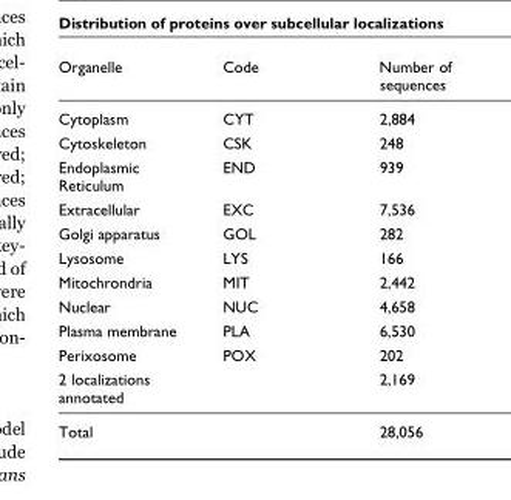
<table><thead><tr><td>Organelle</td><td>Code</td><td>Number of sequences</td></tr></thead><tbody><tr><td>Cytoplasm</td><td>CYT</td><td>2,884</td></tr><tr><td>Cytoskeleton</td><td>CSK</td><td>248</td></tr><tr><td>Endoplasmic Reticulum</td><td>END</td><td>939</td></tr><tr><td>Extracellular</td><td>EXC</td><td>7,536</td></tr><tr><td>Golgi apparatus</td><td>GOL</td><td>282</td></tr><tr><td>Lysosome</td><td>LYS</td><td>166</td></tr><tr><td>Mitochrondria</td><td>MIT</td><td>2,442</td></tr><tr><td>Nuclear</td><td>NUC</td><td>4,658</td></tr><tr><td>Plasma membrane</td><td>PLA</td><td>6,530</td></tr><tr><td>Perixosome</td><td>POX</td><td>202</td></tr><tr><td>2 localizations annotated</td><td></td><td>2,169</td></tr><tr><td>Total</td><td></td><td>28,056</td></tr></tbody></table>